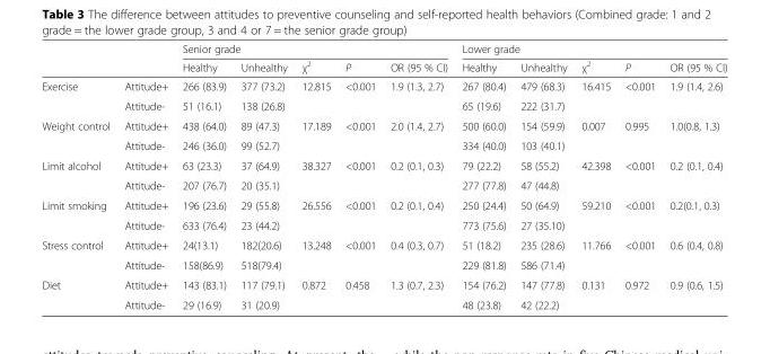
<table><thead><tr><td rowspan="2"></td><td rowspan="2"></td><td colspan="5">Senior grade</td><td colspan="5">Lower grade</td></tr><tr><td>Healthy</td><td>Unhealthy</td><td>χ<sup>2</sup></td><td>P</td><td>OR (95 % CI)</td><td>Healthy</td><td>Unhealthy</td><td>χ<sup>2</sup></td><td>P</td><td>OR (95 % CI)</td></tr></thead><tbody><tr><td rowspan="2">Exercise</td><td>Attitude+</td><td>266 (83.9)</td><td>377 (73.2)</td><td>12.815</td><td>&lt;0.001</td><td>1.9 (1.3, 2.7)</td><td>267 (80.4)</td><td>479 (68.3)</td><td>16.415</td><td>&lt;0.001</td><td>1.9 (1.4, 2.6)</td></tr><tr><td>Attitude-</td><td>51 (16.1)</td><td>138 (26.8)</td><td></td><td></td><td></td><td>65 (19.6)</td><td>222 (31.7)</td><td></td><td></td><td></td></tr><tr><td rowspan="2">Weight control</td><td>Attitude+</td><td>438 (64.0)</td><td>89 (47.3)</td><td>17.189</td><td>&lt;0.001</td><td>2.0 (1.4, 2.7)</td><td>500 (60.0)</td><td>154 (59.9)</td><td>0.007</td><td>0.995</td><td>1.0(0.8, 1.3)</td></tr><tr><td>Attitude-</td><td>246 (36.0)</td><td>99 (52.7)</td><td></td><td></td><td></td><td>334 (40.0)</td><td>103 (40.1)</td><td></td><td></td><td></td></tr><tr><td rowspan="2">Limit alcohol</td><td>Attitude+</td><td>63 (23.3)</td><td>37 (64.9)</td><td>38.327</td><td>&lt;0.001</td><td>0.2 (0.1, 0.3)</td><td>79 (22.2)</td><td>58 (55.2)</td><td>42.398</td><td>&lt;0.001</td><td>0.2 (0.1, 0.4)</td></tr><tr><td>Attitude-</td><td>207 (76.7)</td><td>20 (35.1)</td><td></td><td></td><td></td><td>277 (77.8)</td><td>47 (44.8)</td><td></td><td></td><td></td></tr><tr><td rowspan="2">Limit smoking</td><td>Attitude+</td><td>196 (23.6)</td><td>29 (55.8)</td><td>26.556</td><td>&lt;0.001</td><td>0.2 (0.1, 0.4)</td><td>250 (24.4)</td><td>50 (64.9)</td><td>59.210</td><td>&lt;0.001</td><td>0.2(0.1, 0.3)</td></tr><tr><td>Attitude-</td><td>633 (76.4)</td><td>23 (44.2)</td><td></td><td></td><td></td><td>773 (75.6)</td><td>27 (35.10)</td><td></td><td></td><td></td></tr><tr><td rowspan="2">Stress control</td><td>Attitude+</td><td>24(13.1)</td><td>182(20.6)</td><td>13.248</td><td>&lt;0.001</td><td>0.4 (0.3, 0.7)</td><td>51 (18.2)</td><td>235 (28.6)</td><td>11.766</td><td>&lt;0.001</td><td>0.6 (0.4, 0.8)</td></tr><tr><td>Attitude-</td><td>158(86.9)</td><td>518(79.4)</td><td></td><td></td><td></td><td>229 (81.8)</td><td>586 (71.4)</td><td></td><td></td><td></td></tr><tr><td rowspan="2">Diet</td><td>Attitude+</td><td>143 (83.1)</td><td>117 (79.1)</td><td>0.872</td><td>0.458</td><td>1.3 (0.7, 2.3)</td><td>154 (76.2)</td><td>147 (77.8)</td><td>0.131</td><td>0.972</td><td>0.9 (0.6, 1.5)</td></tr><tr><td>Attitude-</td><td>29 (16.9)</td><td>31 (20.9)</td><td></td><td></td><td></td><td>48 (23.8)</td><td>42 (22.2)</td><td></td><td></td><td></td></tr></tbody></table>